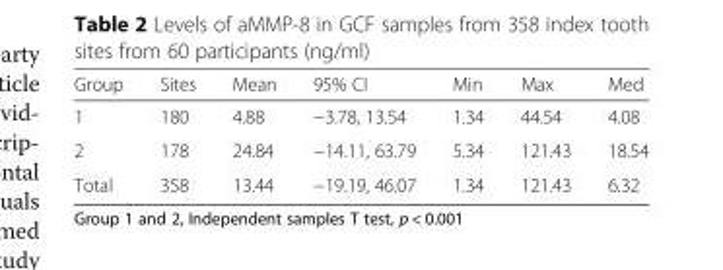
<table><thead><tr><td>Group</td><td>Sites</td><td>Mean</td><td>95% CI</td><td>Min</td><td>Max</td><td>Med</td></tr></thead><tbody><tr><td>1</td><td>180</td><td>4.88</td><td>−3.78, 13.54</td><td>1.34</td><td>44.54</td><td>4.08</td></tr><tr><td>2</td><td>178</td><td>24.84</td><td>−14.11, 63.79</td><td>5.34</td><td>121.43</td><td>18.54</td></tr><tr><td>Total</td><td>358</td><td>13.44</td><td>−19.19, 46.07</td><td>1.34</td><td>121.43</td><td>6.32</td></tr></tbody></table>